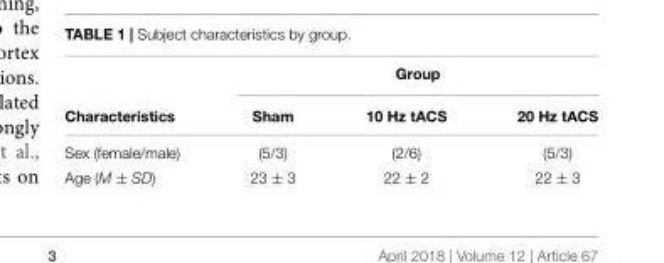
<table><thead><tr><td rowspan="2">Characteristics</td><td colspan="3">Group</td></tr><tr><td>Sham</td><td>10 Hz tACS</td><td>20 Hz tACS</td></tr></thead><tbody><tr><td>Sex (female/male)</td><td>(5/3)</td><td>(2/6)</td><td>(5/3)</td></tr><tr><td>Age (M ± SD)</td><td>23 ± 3</td><td>22 ± 2</td><td>22 ± 3</td></tr></tbody></table>